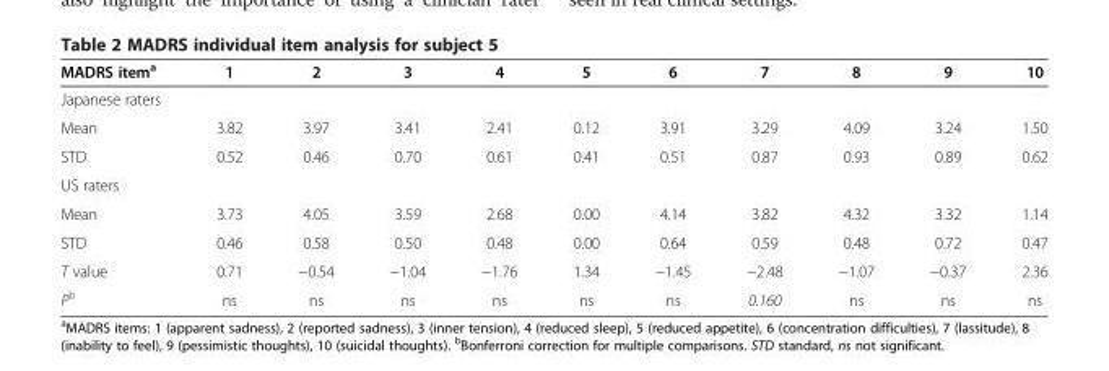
<table><thead><tr><td>MADRS item<sup>a</sup></td><td>1</td><td>2</td><td>3</td><td>4</td><td>5</td><td>6</td><td>7</td><td>8</td><td>9</td><td>10</td></tr></thead><tbody><tr><td colspan="11">Japanese raters</td></tr><tr><td>Mean</td><td>3.82</td><td>3.97</td><td>3.41</td><td>2.41</td><td>0.12</td><td>3.91</td><td>3.29</td><td>4.09</td><td>3.24</td><td>1.50</td></tr><tr><td>STD</td><td>0.52</td><td>0.46</td><td>0.70</td><td>0.61</td><td>0.41</td><td>0.51</td><td>0.87</td><td>0.93</td><td>0.89</td><td>0.62</td></tr><tr><td colspan="11">US raters</td></tr><tr><td>Mean</td><td>3.73</td><td>4.05</td><td>3.59</td><td>2.68</td><td>0.00</td><td>4.14</td><td>3.82</td><td>4.32</td><td>3.32</td><td>1.14</td></tr><tr><td>STD</td><td>0.46</td><td>0.58</td><td>0.50</td><td>0.48</td><td>0.00</td><td>0.64</td><td>0.59</td><td>0.48</td><td>0.72</td><td>0.47</td></tr><tr><td>T value</td><td>0.71</td><td>−0.54</td><td>−1.04</td><td>−1.76</td><td>1.34</td><td>−1.45</td><td>−2.48</td><td>−1.07</td><td>−0.37</td><td>2.36</td></tr><tr><td>P<sup>b</sup></td><td>ns</td><td>ns</td><td>ns</td><td>ns</td><td>ns</td><td>ns</td><td>0.160</td><td>ns</td><td>ns</td><td>ns</td></tr></tbody></table>